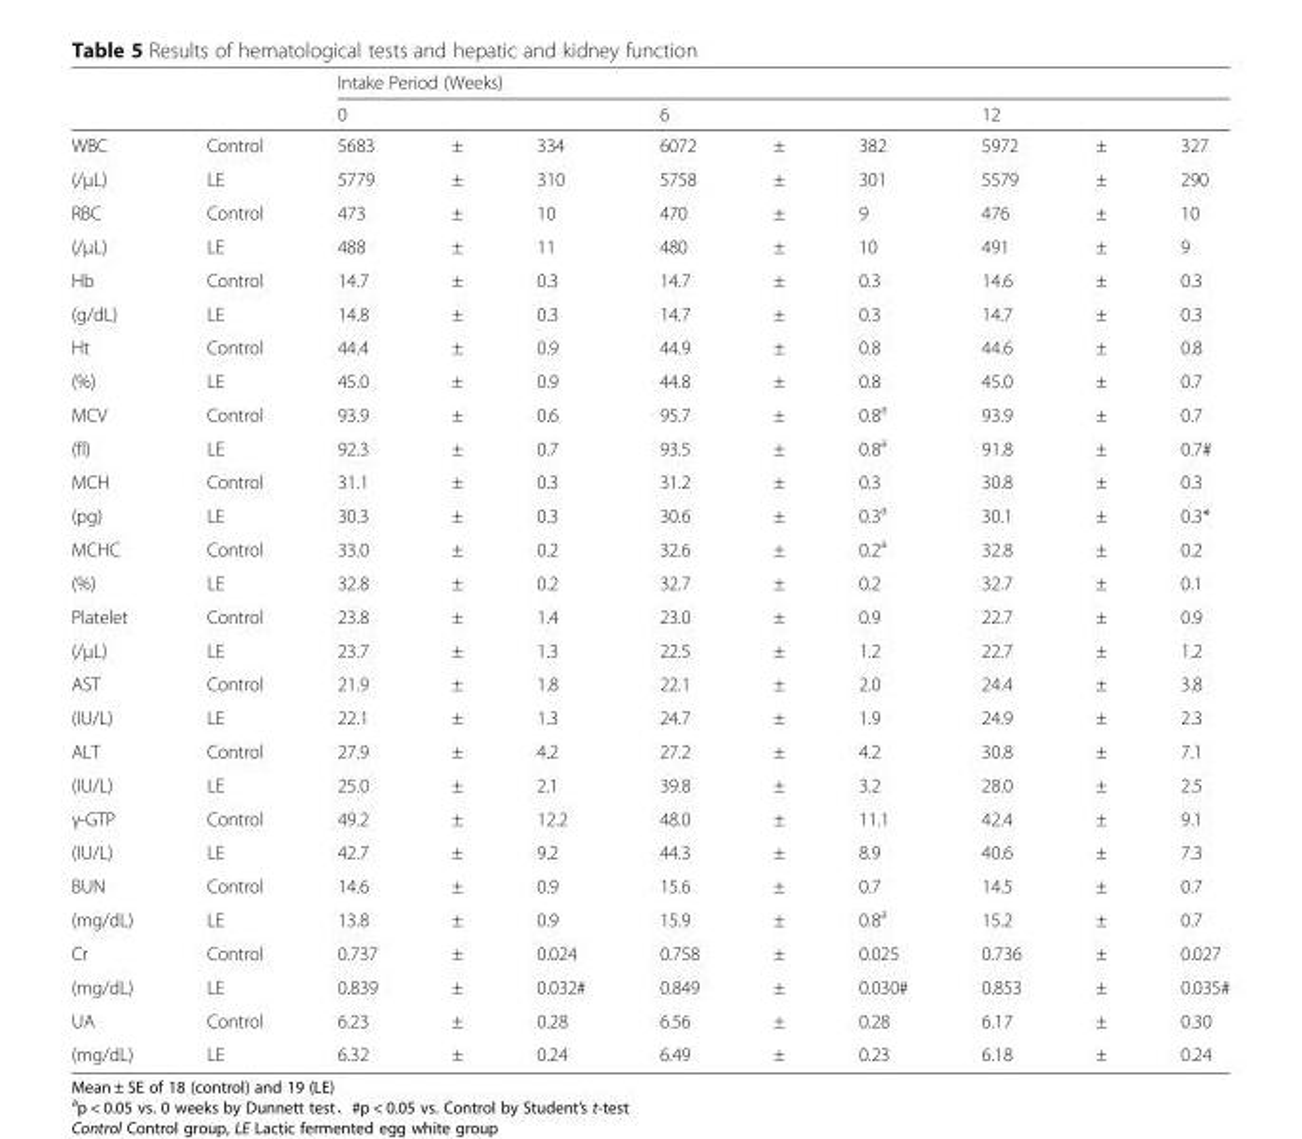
<table><thead><tr><td rowspan="3">WBC</td><td rowspan="3">Control</td><td colspan="9">Intake Period (Weeks)</td></tr><tr><td colspan="3">0</td><td colspan="3">6</td><td colspan="3">12</td></tr><tr><td>5683</td><td>±</td><td>334</td><td>6072</td><td>±</td><td>382</td><td>5972</td><td>±</td><td>327</td></tr></thead><tbody><tr><td>(/μL)</td><td>LE</td><td>5779</td><td>±</td><td>310</td><td>5758</td><td>±</td><td>301</td><td>5579</td><td>±</td><td>290</td></tr><tr><td>RBC</td><td>Control</td><td>473</td><td>±</td><td>10</td><td>470</td><td>±</td><td>9</td><td>476</td><td>±</td><td>10</td></tr><tr><td>(/μL)</td><td>LE</td><td>488</td><td>±</td><td>11</td><td>480</td><td>±</td><td>10</td><td>491</td><td>±</td><td>9</td></tr><tr><td>Hb</td><td>Control</td><td>14.7</td><td>±</td><td>0.3</td><td>14.7</td><td>±</td><td>0.3</td><td>14.6</td><td>±</td><td>0.3</td></tr><tr><td>(g/dL)</td><td>LE</td><td>14.8</td><td>±</td><td>0.3</td><td>14.7</td><td>±</td><td>0.3</td><td>14.7</td><td>±</td><td>0.3</td></tr><tr><td>Ht</td><td>Control</td><td>44.4</td><td>±</td><td>0.9</td><td>44.9</td><td>±</td><td>0.8</td><td>44.6</td><td>±</td><td>0.8</td></tr><tr><td>(%)</td><td>LE</td><td>45.0</td><td>±</td><td>0.9</td><td>44.8</td><td>±</td><td>0.8</td><td>45.0</td><td>±</td><td>0.7</td></tr><tr><td>MCV</td><td>Control</td><td>93.9</td><td>±</td><td>0.6</td><td>95.7</td><td>±</td><td>0.8<sup>a</sup></td><td>93.9</td><td>±</td><td>0.7</td></tr><tr><td>(fl)</td><td>LE</td><td>92.3</td><td>±</td><td>0.7</td><td>93.5</td><td>±</td><td>0.8<sup>a</sup></td><td>91.8</td><td>±</td><td>0.7#</td></tr><tr><td>MCH</td><td>Control</td><td>31.1</td><td>±</td><td>0.3</td><td>31.2</td><td>±</td><td>0.3</td><td>30.8</td><td>±</td><td>0.3</td></tr><tr><td>(pg)</td><td>LE</td><td>30.3</td><td>±</td><td>0.3</td><td>30.6</td><td>±</td><td>0.3<sup>a</sup></td><td>30.1</td><td>±</td><td>0.3*</td></tr><tr><td>MCHC</td><td>Control</td><td>33.0</td><td>±</td><td>0.2</td><td>32.6</td><td>±</td><td>0.2<sup>a</sup></td><td>32.8</td><td>±</td><td>0.2</td></tr><tr><td>(%)</td><td>LE</td><td>32.8</td><td>±</td><td>0.2</td><td>32.7</td><td>±</td><td>0.2</td><td>32.7</td><td>±</td><td>0.1</td></tr><tr><td>Platelet</td><td>Control</td><td>23.8</td><td>±</td><td>1.4</td><td>23.0</td><td>±</td><td>0.9</td><td>22.7</td><td>±</td><td>0.9</td></tr><tr><td>(/μL)</td><td>LE</td><td>23.7</td><td>±</td><td>1.3</td><td>22.5</td><td>±</td><td>1.2</td><td>22.7</td><td>±</td><td>1.2</td></tr><tr><td>AST</td><td>Control</td><td>21.9</td><td>±</td><td>1.8</td><td>22.1</td><td>±</td><td>2.0</td><td>24.4</td><td>±</td><td>3.8</td></tr><tr><td>(IU/L)</td><td>LE</td><td>22.1</td><td>±</td><td>1.3</td><td>24.7</td><td>±</td><td>1.9</td><td>24.9</td><td>±</td><td>2.3</td></tr><tr><td>ALT</td><td>Control</td><td>27.9</td><td>±</td><td>4.2</td><td>27.2</td><td>±</td><td>4.2</td><td>30.8</td><td>±</td><td>7.1</td></tr><tr><td>(IU/L)</td><td>LE</td><td>25.0</td><td>±</td><td>2.1</td><td>39.8</td><td>±</td><td>3.2</td><td>28.0</td><td>±</td><td>2.5</td></tr><tr><td>γ-GTP</td><td>Control</td><td>49.2</td><td>±</td><td>12.2</td><td>48.0</td><td>±</td><td>11.1</td><td>42.4</td><td>±</td><td>9.1</td></tr><tr><td>(IU/L)</td><td>LE</td><td>42.7</td><td>±</td><td>9.2</td><td>44.3</td><td>±</td><td>8.9</td><td>40.6</td><td>±</td><td>7.3</td></tr><tr><td>BUN</td><td>Control</td><td>14.6</td><td>±</td><td>0.9</td><td>15.6</td><td>±</td><td>0.7</td><td>14.5</td><td>±</td><td>0.7</td></tr><tr><td>(mg/dL)</td><td>LE</td><td>13.8</td><td>±</td><td>0.9</td><td>15.9</td><td>±</td><td>0.8<sup>a</sup></td><td>15.2</td><td>±</td><td>0.7</td></tr><tr><td>Cr</td><td>Control</td><td>0.737</td><td>±</td><td>0.024</td><td>0.758</td><td>±</td><td>0.025</td><td>0.736</td><td>±</td><td>0.027</td></tr><tr><td>(mg/dL)</td><td>LE</td><td>0.839</td><td>±</td><td>0.032#</td><td>0.849</td><td>±</td><td>0.030#</td><td>0.853</td><td>±</td><td>0.035#</td></tr><tr><td>UA</td><td>Control</td><td>6.23</td><td>±</td><td>0.28</td><td>6.56</td><td>±</td><td>0.28</td><td>6.17</td><td>±</td><td>0.30</td></tr><tr><td>(mg/dL)</td><td>LE</td><td>6.32</td><td>±</td><td>0.24</td><td>6.49</td><td>±</td><td>0.23</td><td>6.18</td><td>±</td><td>0.24</td></tr></tbody></table>